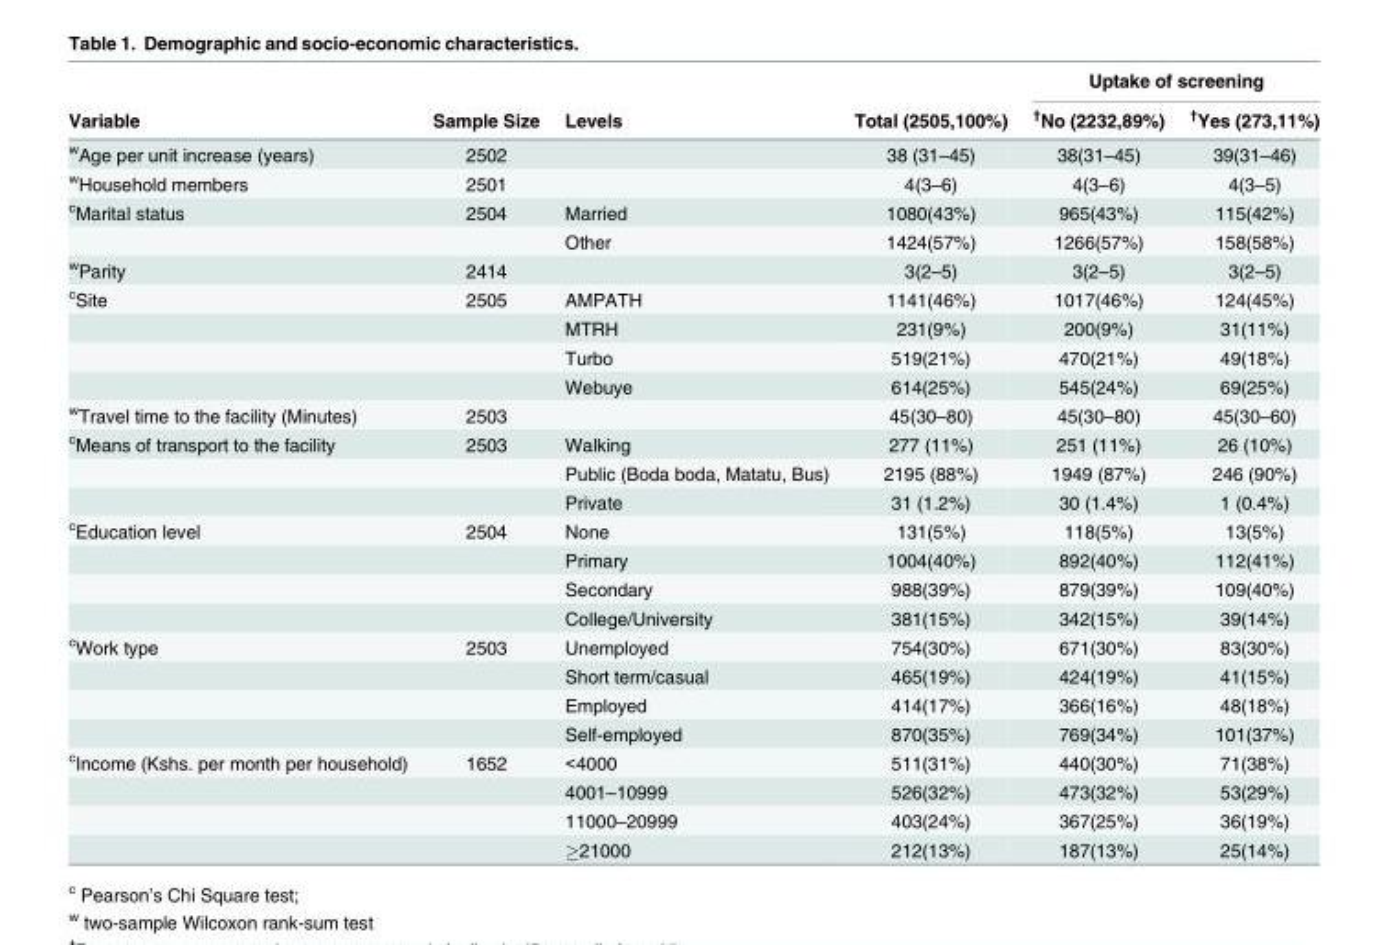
<table><thead><tr><td rowspan="2">Variable</td><td rowspan="2">Sample Size</td><td rowspan="2">Levels</td><td rowspan="2">Total (2505,100%)</td><td colspan="2">Uptake of screening</td></tr><tr><td><sup>†</sup>No (2232,89%)</td><td><sup>†</sup>Yes (273,11%)</td></tr></thead><tbody><tr><td><sup>w</sup>Age per unit increase (years)</td><td>2502</td><td></td><td>38 (31–45)</td><td>38(31–45)</td><td>39(31–46)</td></tr><tr><td><sup>w</sup>Household members</td><td>2501</td><td></td><td>4(3–6)</td><td>4(3–6)</td><td>4(3–5)</td></tr><tr><td rowspan="2"><sup>c</sup>Marital status</td><td>2504</td><td>Married</td><td>1080(43%)</td><td>965(43%)</td><td>115(42%)</td></tr><tr><td></td><td>Other</td><td>1424(57%)</td><td>1266(57%)</td><td>158(58%)</td></tr><tr><td><sup>w</sup>Parity</td><td>2414</td><td></td><td>3(2–5)</td><td>3(2–5)</td><td>3(2–5)</td></tr><tr><td rowspan="4"><sup>c</sup>Site</td><td>2505</td><td>AMPATH</td><td>1141(46%)</td><td>1017(46%)</td><td>124(45%)</td></tr><tr><td></td><td>MTRH</td><td>231(9%)</td><td>200(9%)</td><td>31(11%)</td></tr><tr><td></td><td>Turbo</td><td>519(21%)</td><td>470(21%)</td><td>49(18%)</td></tr><tr><td></td><td>Webuye</td><td>614(25%)</td><td>545(24%)</td><td>69(25%)</td></tr><tr><td><sup>w</sup>Travel time to the facility (Minutes)</td><td>2503</td><td></td><td>45(30–80)</td><td>45(30–80)</td><td>45(30–60)</td></tr><tr><td rowspan="3"><sup>c</sup>Means of transport to the facility</td><td>2503</td><td>Walking</td><td>277 (11%)</td><td>251 (11%)</td><td>26 (10%)</td></tr><tr><td></td><td>Public (Boda boda, Matatu, Bus)</td><td>2195 (88%)</td><td>1949 (87%)</td><td>246 (90%)</td></tr><tr><td></td><td>Private</td><td>31 (1.2%)</td><td>30 (1.4%)</td><td>1 (0.4%)</td></tr><tr><td rowspan="4"><sup>c</sup>Education level</td><td>2504</td><td>None</td><td>131(5%)</td><td>118(5%)</td><td>13(5%)</td></tr><tr><td></td><td>Primary</td><td>1004(40%)</td><td>892(40%)</td><td>112(41%)</td></tr><tr><td></td><td>Secondary</td><td>988(39%)</td><td>879(39%)</td><td>109(40%)</td></tr><tr><td></td><td>College/University</td><td>381(15%)</td><td>342(15%)</td><td>39(14%)</td></tr><tr><td rowspan="4"><sup>c</sup>Work type</td><td>2503</td><td>Unemployed</td><td>754(30%)</td><td>671(30%)</td><td>83(30%)</td></tr><tr><td></td><td>Short term/casual</td><td>465(19%)</td><td>424(19%)</td><td>41(15%)</td></tr><tr><td></td><td>Employed</td><td>414(17%)</td><td>366(16%)</td><td>48(18%)</td></tr><tr><td></td><td>Self-employed</td><td>870(35%)</td><td>769(34%)</td><td>101(37%)</td></tr><tr><td rowspan="4"><sup>c</sup>Income (Kshs. per month per household)</td><td>1652</td><td>&lt;4000</td><td>511(31%)</td><td>440(30%)</td><td>71(38%)</td></tr><tr><td></td><td>4001–10999</td><td>526(32%)</td><td>473(32%)</td><td>53(29%)</td></tr><tr><td></td><td>11000–20999</td><td>403(24%)</td><td>367(25%)</td><td>36(19%)</td></tr><tr><td></td><td>≥21000</td><td>212(13%)</td><td>187(13%)</td><td>25(14%)</td></tr></tbody></table>